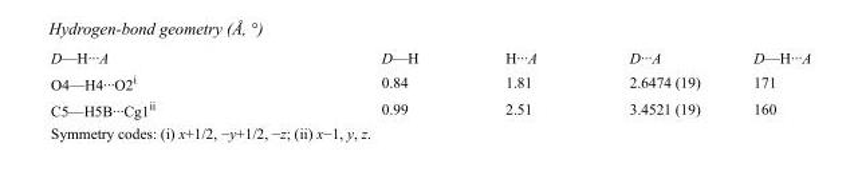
<table><tbody><tr><td>D—H···A</td><td>D—H</td><td>H···A</td><td>D···A</td><td>D—H···A</td></tr><tr><td>O4—H4···O2<sup>i</sup></td><td>0.84</td><td>1.81</td><td>2.6474 (19)</td><td>171</td></tr><tr><td>C5—H5B···Cg1<sup>ii</sup></td><td>0.99</td><td>2.51</td><td>3.4521 (19)</td><td>160</td></tr></tbody></table>